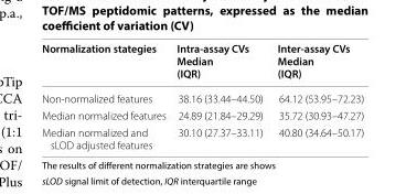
<table><thead><tr><td>Normalization stategies</td><td>Intra‑assay CVs Median (IQR)</td><td>Inter‑assay CVs Median (IQR)</td></tr></thead><tbody><tr><td>Non‑normalized features</td><td>38.16 (33.44–44.50)</td><td>64.12 (53.95–72.23)</td></tr><tr><td>Median normalized features</td><td>24.89 (21.84–29.29)</td><td>35.72 (30.93–47.27)</td></tr><tr><td>Median normalized and sLOD adjusted features</td><td>30.10 (27.37–33.11)</td><td>40.80 (34.64–50.17)</td></tr></tbody></table>